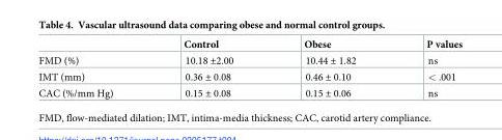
<table><thead><tr><td></td><td>Control</td><td>Obese</td><td>P values</td></tr></thead><tbody><tr><td>FMD (%)</td><td>10.18 ±2.00</td><td>10.44 ± 1.82</td><td>ns</td></tr><tr><td>IMT (mm)</td><td>0.36 ± 0.08</td><td>0.46 ± 0.10</td><td>&lt; .001</td></tr><tr><td>CAC (%/mm Hg)</td><td>0.15 ± 0.08</td><td>0.15 ± 0.06</td><td>ns</td></tr></tbody></table>